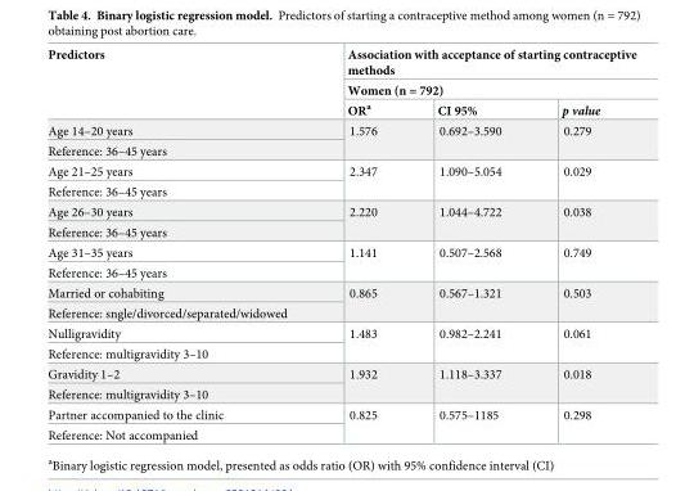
<table><thead><tr><td rowspan="3">Predictors</td><td rowspan="2" colspan="3">Association with acceptance of starting contraceptive methods Women (n = 792)</td></tr><tr></tr><tr><td>OR<sup>a</sup></td><td>CI 95%</td><td>p value</td></tr></thead><tbody><tr><td>Age 14–20 years</td><td rowspan="2">1.576</td><td rowspan="2">0.692–3.590</td><td rowspan="2">0.279</td></tr><tr><td>Reference: 36–45 years</td></tr><tr><td>Age 21–25 years</td><td rowspan="2">2.347</td><td rowspan="2">1.090–5.054</td><td rowspan="2">0.029</td></tr><tr><td>Reference: 36–45 years</td></tr><tr><td>Age 26–30 years</td><td rowspan="2">2.220</td><td rowspan="2">1.044–4.722</td><td rowspan="2">0.038</td></tr><tr><td>Reference: 36–45 years</td></tr><tr><td>Age 31–35 years</td><td rowspan="2">1.141</td><td rowspan="2">0.507–2.568</td><td rowspan="2">0.749</td></tr><tr><td>Reference: 36–45 years</td></tr><tr><td>Married or cohabiting</td><td rowspan="2">0.865</td><td rowspan="2">0.567–1.321</td><td rowspan="2">0.503</td></tr><tr><td>Reference: sngle/divorced/separated/widowed</td></tr><tr><td>Nulligravidity</td><td rowspan="2">1.483</td><td rowspan="2">0.982–2.241</td><td rowspan="2">0.061</td></tr><tr><td>Reference: multigravidity 3–10</td></tr><tr><td>Gravidity 1–2</td><td rowspan="2">1.932</td><td rowspan="2">1.118–3.337</td><td rowspan="2">0.018</td></tr><tr><td>Reference: multigravidity 3–10</td></tr><tr><td>Partner accompanied to the clinic</td><td rowspan="2">0.825</td><td rowspan="2">0.575–1185</td><td rowspan="2">0.298</td></tr><tr><td>Reference: Not accompanied</td></tr></tbody></table>